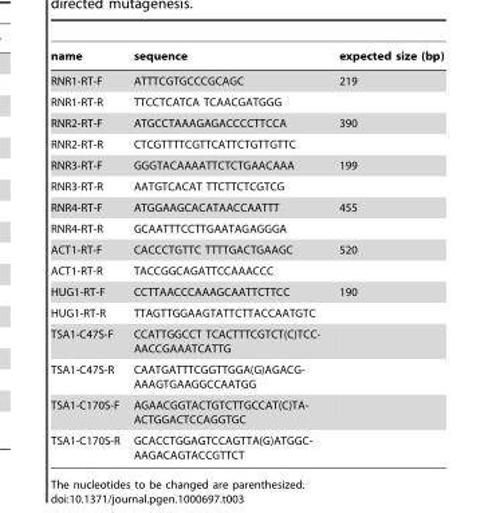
<table><thead><tr><td>name</td><td>sequence</td><td>expected size (bp)</td></tr></thead><tbody><tr><td>RNR1-RT-F</td><td>ATTTCGTGCCCGCAGC</td><td>219</td></tr><tr><td>RNR1-RT-R</td><td>TTCCTCATCA TCAACGATGGG</td><td></td></tr><tr><td>RNR2-RT-F</td><td>ATGCCTAAAGAGACCCCTTCCA</td><td>390</td></tr><tr><td>RNR2-RT-R</td><td>CTCGTTTTCGTTCATTCTGTTGTTC</td><td></td></tr><tr><td>RNR3-RT-F</td><td>GGGTACAAAATTCTCTGAACAAA</td><td>199</td></tr><tr><td>RNR3-RT-R</td><td>AATGTCACAT TTCTTCTCGTCG</td><td></td></tr><tr><td>RNR4-RT-F</td><td>ATGGAAGCACATAACCAATTT</td><td>455</td></tr><tr><td>RNR4-RT-R</td><td>GCAATTTCCTTGAATAGAGGGA</td><td></td></tr><tr><td>ACT1-RT-F</td><td>CACCCTGTTC TTTTGACTGAAGC</td><td>520</td></tr><tr><td>ACT1-RT-R</td><td>TACCGGCAGATTCCAAACCC</td><td></td></tr><tr><td>HUG1-RT-F</td><td>CCTTAACCCAAAGCAATTCTTCC</td><td>190</td></tr><tr><td>HUG1-RT-R</td><td>TTAGTTGGAAGTATTCTTACCAATGTC</td><td></td></tr><tr><td>TSA1-C47S-F</td><td>CCATTGGCCT TCACTTTCGTCT(C)TCC- AACCGAAATCATTG</td><td></td></tr><tr><td>TSA1-C47S-R</td><td>CAATGATTTCGGTTGGA(G)AGACG- AAAGTGAAGGCCAATGG</td><td></td></tr><tr><td>TSA1-C170S-F</td><td>AGAACGGTACTGTCTTGCCAT(C)TA- ACTGGACTCCAGGTGC</td><td></td></tr><tr><td>TSA1-C170S-R</td><td>GCACCTGGAGTCCAGTTA(G)ATGGC- AAGACAGTACCGTTCT</td><td></td></tr></tbody></table>